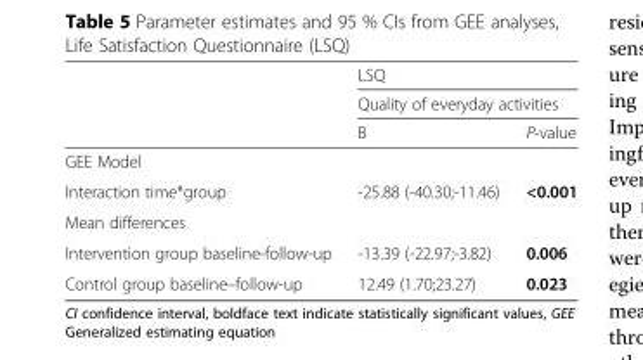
<table><thead><tr><td rowspan="3"></td><td rowspan="2" colspan="2">LSQ Quality of everyday activities</td></tr><tr></tr><tr><td>B</td><td>P-value</td></tr></thead><tbody><tr><td colspan="3">GEE Model</td></tr><tr><td>Interaction time*group</td><td>-25.88 (-40.30;-11.46)</td><td>&lt;0.001</td></tr><tr><td colspan="3">Mean differences</td></tr><tr><td>Intervention group baseline-follow-up</td><td>-13.39 (-22.97;-3.82)</td><td>0.006</td></tr><tr><td>Control group baseline–follow-up</td><td>12.49 (1.70;23.27)</td><td>0.023</td></tr></tbody></table>